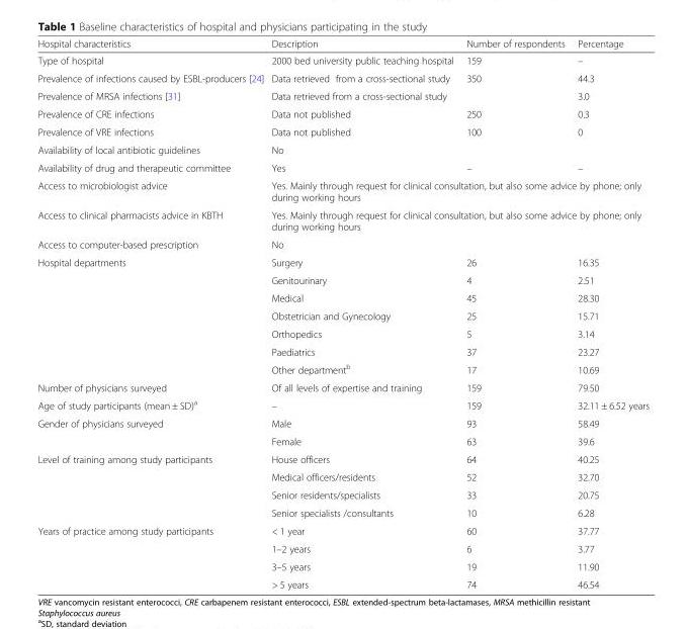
<table><thead><tr><td>Hospital characteristics</td><td>Description</td><td>Number of respondents</td><td>Percentage</td></tr></thead><tbody><tr><td>Type of hospital</td><td>2000 bed university public teaching hospital</td><td>159</td><td>–</td></tr><tr><td>Prevalence of infections caused by ESBL-producers [24]</td><td>Data retrieved from a cross-sectional study</td><td>350</td><td>44.3</td></tr><tr><td>Prevalence of MRSA infections [31]</td><td>Data retrieved from a cross-sectional study</td><td></td><td>3.0</td></tr><tr><td>Prevalence of CRE infections</td><td>Data not published</td><td>250</td><td>0.3</td></tr><tr><td>Prevalence of VRE infections</td><td>Data not published</td><td>100</td><td>0</td></tr><tr><td>Availability of local antibiotic guidelines</td><td>No</td><td></td><td></td></tr><tr><td>Availability of drug and therapeutic committee</td><td>Yes</td><td>–</td><td>–</td></tr><tr><td>Access to microbiologist advice</td><td colspan="3">Yes. Mainly through request for clinical consultation, but also some advice by phone; only during working hours</td></tr><tr><td>Access to clinical pharmacists advice in KBTH</td><td colspan="3">Yes. Mainly through request for clinical consultation, but also some advice by phone; only during working hours</td></tr><tr><td>Access to computer-based prescription</td><td>No</td><td></td><td></td></tr><tr><td rowspan="7">Hospital departments</td><td>Surgery</td><td>26</td><td>16.35</td></tr><tr><td>Genitourinary</td><td>4</td><td>2.51</td></tr><tr><td>Medical</td><td>45</td><td>28.30</td></tr><tr><td>Obstetrician and Gynecology</td><td>25</td><td>15.71</td></tr><tr><td>Orthopedics</td><td>5</td><td>3.14</td></tr><tr><td>Paediatrics</td><td>37</td><td>23.27</td></tr><tr><td>Other department<sup>b</sup></td><td>17</td><td>10.69</td></tr><tr><td>Number of physicians surveyed</td><td>Of all levels of expertise and training</td><td>159</td><td>79.50</td></tr><tr><td>Age of study participants (mean ± SD)<sup>a</sup></td><td>–</td><td>159</td><td>32.11 ± 6.52 years</td></tr><tr><td rowspan="2">Gender of physicians surveyed</td><td>Male</td><td>93</td><td>58.49</td></tr><tr><td>Female</td><td>63</td><td>39.6</td></tr><tr><td rowspan="4">Level of training among study participants</td><td>House officers</td><td>64</td><td>40.25</td></tr><tr><td>Medical officers/residents</td><td>52</td><td>32.70</td></tr><tr><td>Senior residents/specialists</td><td>33</td><td>20.75</td></tr><tr><td>Senior specialists /consultants</td><td>10</td><td>6.28</td></tr><tr><td rowspan="4">Years of practice among study participants</td><td>&lt; 1 year</td><td>60</td><td>37.77</td></tr><tr><td>1–2 years</td><td>6</td><td>3.77</td></tr><tr><td>3–5 years</td><td>19</td><td>11.90</td></tr><tr><td>&gt; 5 years</td><td>74</td><td>46.54</td></tr></tbody></table>